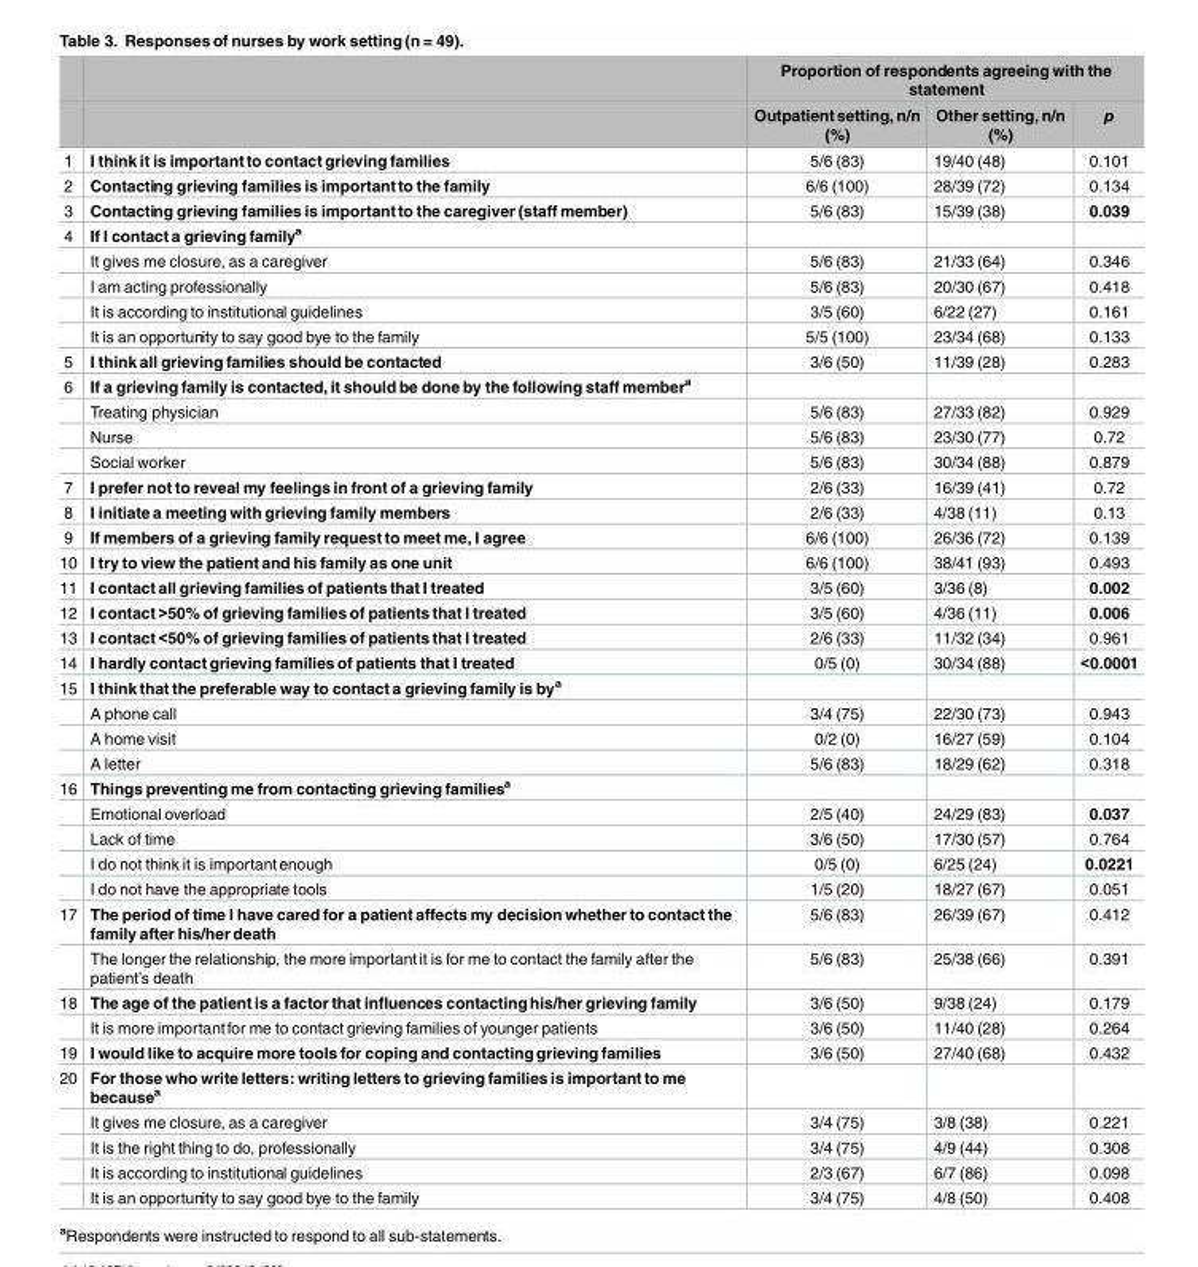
<table><thead><tr><td rowspan="2"></td><td rowspan="2"></td><td colspan="3">Proportion of respondents agreeing with the statement</td></tr><tr><td>Outpatientsetting, n/n (%)</td><td>Other setting, n/n (%)</td><td>p</td></tr></thead><tbody><tr><td>1</td><td>I think it is importantto contact grieving families</td><td>5/6 (83)</td><td>19/40 (48)</td><td>0.101</td></tr><tr><td>2</td><td>Contacting grieving families is importantto the family</td><td>6/6 (100)</td><td>28/39 (72)</td><td>0.134</td></tr><tr><td>3</td><td>Contacting grieving families is importantto the caregiver (staff member)</td><td>5/6 (83)</td><td>15/39 (38)</td><td>0.039</td></tr><tr><td rowspan="5">4</td><td>If I contact a grieving family<sup>a</sup></td><td></td><td></td><td></td></tr><tr><td>It gives me closure, as a caregiver</td><td>5/6 (83)</td><td>21/33 (64)</td><td>0.346</td></tr><tr><td>I am acting professionally</td><td>5/6 (83)</td><td>20/30 (67)</td><td>0.418</td></tr><tr><td>It is according to institutional guidelines</td><td>3/5 (60)</td><td>6/22 (27)</td><td>0.161</td></tr><tr><td>It is an opportunity to say good bye to the family</td><td>5/5 (100)</td><td>23/34 (68)</td><td>0.133</td></tr><tr><td>5</td><td>I think all grieving families should be contacted</td><td>3/6 (50)</td><td>11/39 (28)</td><td>0.283</td></tr><tr><td rowspan="4">6</td><td>If a grieving family is contacted, it should be done by the following staff member<sup>a</sup></td><td></td><td></td><td></td></tr><tr><td>Treating physician</td><td>5/6 (83)</td><td>27/33 (82)</td><td>0.929</td></tr><tr><td>Nurse</td><td>5/6 (83)</td><td>23/30 (77)</td><td>0.72</td></tr><tr><td>Social worker</td><td>5/6 (83)</td><td>30/34 (88)</td><td>0.879</td></tr><tr><td>7</td><td>I prefer not to reveal my feelings in front of a grieving family</td><td>2/6 (33)</td><td>16/39 (41)</td><td>0.72</td></tr><tr><td>8</td><td>I initiate a meeting with grieving family members</td><td>2/6 (33)</td><td>4/38 (11)</td><td>0.13</td></tr><tr><td>9</td><td>If members of a grieving family request to meet me, I agree</td><td>6/6 (100)</td><td>26/36 (72)</td><td>0.139</td></tr><tr><td>10</td><td>I try to view the patient and his family as one unit</td><td>6/6 (100)</td><td>38/41 (93)</td><td>0.493</td></tr><tr><td>11</td><td>I contact all grieving families of patients that I treated</td><td>3/5 (60)</td><td>3/36 (8)</td><td>0.002</td></tr><tr><td>12</td><td>I contact &gt;50% of grieving families of patients that I treated</td><td>3/5 (60)</td><td>4/36 (11)</td><td>0.006</td></tr><tr><td>13</td><td>I contact &lt;50% of grieving families of patients that I treated</td><td>2/6 (33)</td><td>11/32 (34)</td><td>0.961</td></tr><tr><td>14</td><td>I hardly contact grieving families of patients that I treated</td><td>0/5 (0)</td><td>30/34 (88)</td><td>&lt;0.0001</td></tr><tr><td rowspan="4">15</td><td>I think that the preferable way to contact a grieving family is by<sup>a</sup></td><td></td><td></td><td></td></tr><tr><td>A phone call</td><td>3/4 (75)</td><td>22/30 (73)</td><td>0.943</td></tr><tr><td>A home visit</td><td>0/2 (0)</td><td>16/27 (59)</td><td>0.104</td></tr><tr><td>A letter</td><td>5/6 (83)</td><td>18/29 (62)</td><td>0.318</td></tr><tr><td rowspan="5">16</td><td>Things preventing me from contacting grieving families<sup>a</sup></td><td></td><td></td><td></td></tr><tr><td>Emotional overload</td><td>2/5 (40)</td><td>24/29 (83)</td><td>0.037</td></tr><tr><td>Lack of time</td><td>3/6 (50)</td><td>17/30 (57)</td><td>0.764</td></tr><tr><td>I do not think it is importantenough</td><td>0/5 (0)</td><td>6/25 (24)</td><td>0.0221</td></tr><tr><td>I do not have the appropriate tools</td><td>1/5 (20)</td><td>18/27 (67)</td><td>0.051</td></tr><tr><td rowspan="2">17</td><td>The period of time I have cared for a patient affects my decision whether to contact the family after his/her death</td><td>5/6 (83)</td><td>26/39 (67)</td><td>0.412</td></tr><tr><td>The longer the relationship, the more importantit is for me to contact the family after the patient’s death</td><td>5/6 (83)</td><td>25/38 (66)</td><td>0.391</td></tr><tr><td rowspan="2">18</td><td>The age of the patient is a factor that influences contactinghis/her grieving family</td><td>3/6 (50)</td><td>9/38 (24)</td><td>0.179</td></tr><tr><td>It is more importantfor me to contact grieving families of younger patients</td><td>3/6 (50)</td><td>11/40 (28)</td><td>0.264</td></tr><tr><td>19</td><td>I would like to acquire more tools for coping and contactinggrieving families</td><td>3/6 (50)</td><td>27/40 (68)</td><td>0.432</td></tr><tr><td rowspan="5">20</td><td>For those who write letters: writing letters to grieving families is importantto me because<sup>a</sup></td><td></td><td></td><td></td></tr><tr><td>It gives me closure, as a caregiver</td><td>3/4 (75)</td><td>3/8 (38)</td><td>0.221</td></tr><tr><td>It is the right thing to do, professionally</td><td>3/4 (75)</td><td>4/9 (44)</td><td>0.308</td></tr><tr><td>It is according to institutional guidelines</td><td>2/3 (67)</td><td>6/7 (86)</td><td>0.098</td></tr><tr><td>It is an opportunity to say good bye to the family</td><td>3/4 (75)</td><td>4/8 (50)</td><td>0.408</td></tr></tbody></table>